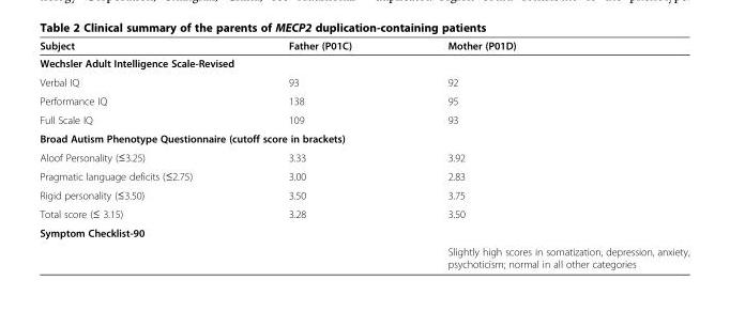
<table><thead><tr><td>Subject</td><td>Father (P01C)</td><td>Mother (P01D)</td></tr></thead><tbody><tr><td colspan="3">Wechsler Adult Intelligence Scale-Revised</td></tr><tr><td>Verbal IQ</td><td>93</td><td>92</td></tr><tr><td>Performance IQ</td><td>138</td><td>95</td></tr><tr><td>Full Scale IQ</td><td>109</td><td>93</td></tr><tr><td colspan="3">Broad Autism Phenotype Questionnaire (cutoff score in brackets)</td></tr><tr><td>Aloof Personality (≤3.25)</td><td>3.33</td><td>3.92</td></tr><tr><td>Pragmatic language deficits (≤2.75)</td><td>3.00</td><td>2.83</td></tr><tr><td>Rigid personality (≤3.50)</td><td>3.50</td><td>3.75</td></tr><tr><td>Total score (≤ 3.15)</td><td>3.28</td><td>3.50</td></tr><tr><td colspan="3">Symptom Checklist-90</td></tr><tr><td></td><td></td><td>Slightly high scores in somatization, depression, anxiety, psychoticism; normal in all other categories</td></tr></tbody></table>